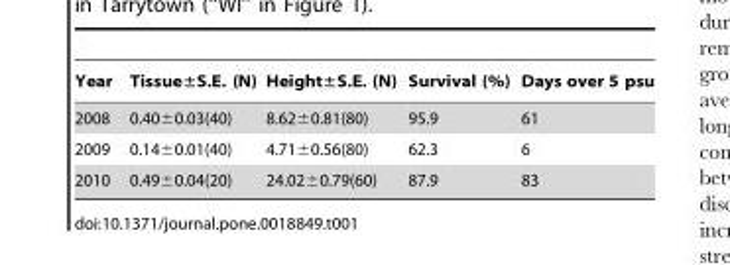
<table><thead><tr><td>Year</td><td>Tissue±S.E. (N)</td><td>Height±S.E. (N)</td><td>Survival (%)</td><td>Days over 5 psu</td></tr></thead><tbody><tr><td>2008</td><td>0.40±0.03(40)</td><td>8.62±0.81(80)</td><td>95.9</td><td>61</td></tr><tr><td>2009</td><td>0.14±0.01(40)</td><td>4.71±0.56(80)</td><td>62.3</td><td>6</td></tr><tr><td>2010</td><td>0.49±0.04(20)</td><td>24.02±0.79(60)</td><td>87.9</td><td>83</td></tr></tbody></table>